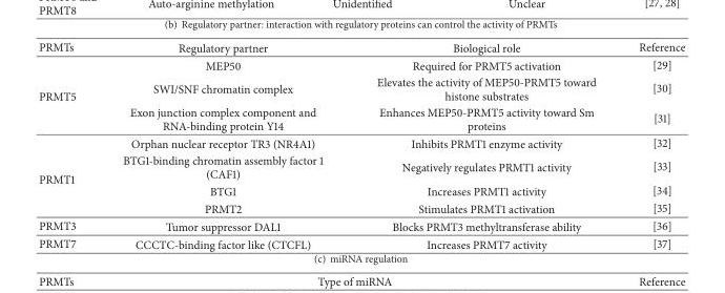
<table><thead><tr><td>PRMTs</td><td>Regulatory partner</td><td>Biological role</td><td>Reference</td></tr></thead><tbody><tr><td rowspan="3">PRMT5</td><td>MEP50</td><td>Required for PRMT5 activation</td><td>[29]</td></tr><tr><td>SWI/SNF chromatin complex</td><td>Elevates the activity of MEP50-PRMT5 toward histone substrates</td><td>[30]</td></tr><tr><td>Exon junction complex component and RNA-binding protein Y14</td><td>Enhances MEP50-PRMT5 activity toward Sm proteins</td><td>[31]</td></tr><tr><td rowspan="4">PRMT1</td><td>Orphan nuclear receptor TR3 (NR4A1)</td><td>Inhibits PRMT1 enzyme activity</td><td>[32]</td></tr><tr><td>BTG1-binding chromatin assembly factor 1 (CAF1)</td><td>Negatively regulates PRMT1 activity</td><td>[33]</td></tr><tr><td>BTG1</td><td>Increases PRMT1 activity</td><td>[34]</td></tr><tr><td>PRMT2</td><td>Stimulates PRMT1 activation</td><td>[35]</td></tr><tr><td>PRMT3</td><td>Tumor suppressor DAL1</td><td>Blocks PRMT3 methyltransferase ability</td><td>[36]</td></tr><tr><td>PRMT7</td><td>CCCTC-binding factor like (CTCFL)</td><td>Increases PRMT7 activity</td><td>[37]</td></tr></tbody></table>